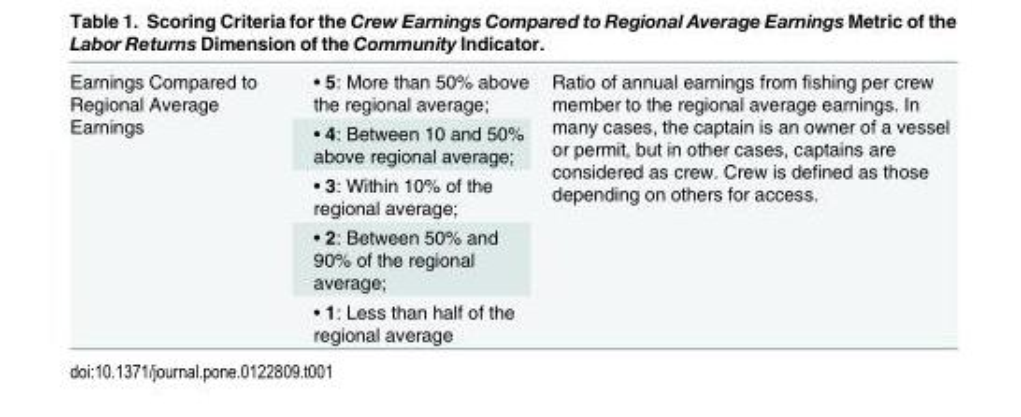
<table><tbody><tr><td rowspan="5">Earnings Compared to Regional Average Earnings</td><td>• 5: More than 50% above the regional average;</td><td rowspan="5">Ratio of annual earnings from fishing per crew member to the regional average earnings. In many cases, the captain is an owner of a vessel or permit, but in other cases, captains are considered as crew. Crew is defined as those depending on others for access.</td></tr><tr><td>• 4: Between 10 and 50% above regional average;</td></tr><tr><td>• 3: Within 10% of the regional average;</td></tr><tr><td>• 2: Between 50% and 90% of the regional average;</td></tr><tr><td>• 1: Less than half of the regional average</td></tr></tbody></table>